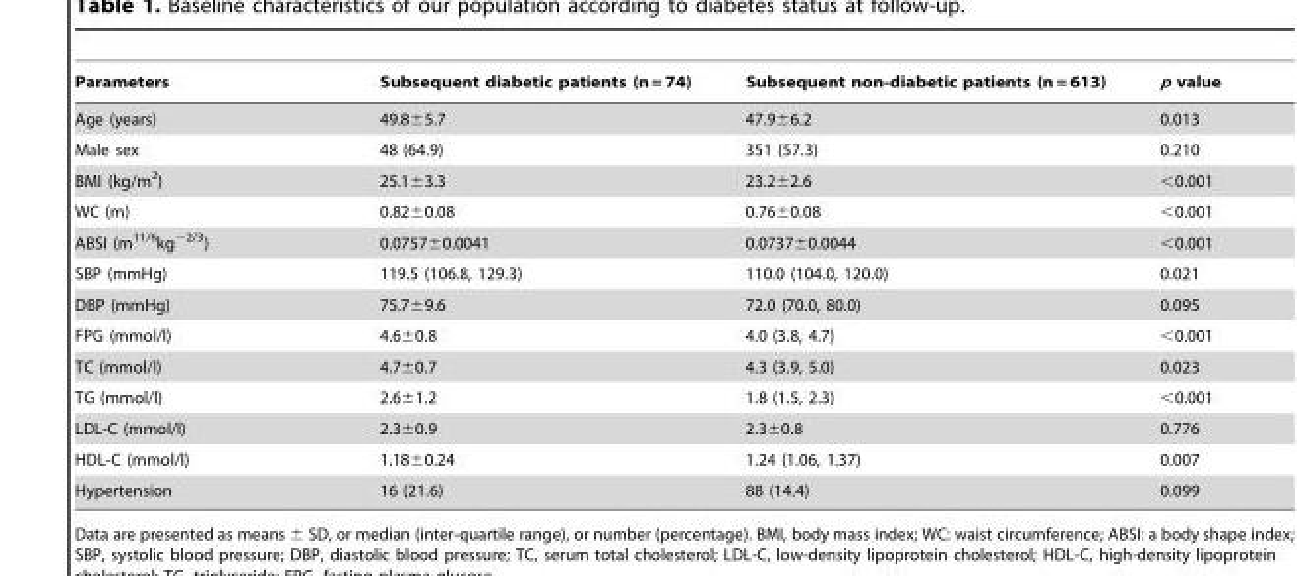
<table><thead><tr><td>Parameters</td><td>Subsequent diabetic patients (n = 74)</td><td>Subsequent non-diabetic patients (n = 613)</td><td>p value</td></tr></thead><tbody><tr><td>Age (years)</td><td>49.8±5.7</td><td>47.9±6.2</td><td>0.013</td></tr><tr><td>Male sex</td><td>48 (64.9)</td><td>351 (57.3)</td><td>0.210</td></tr><tr><td>BMI (kg/m<sup>2</sup>)</td><td>25.1±3.3</td><td>23.2±2.6</td><td>&lt;0.001</td></tr><tr><td>WC (m)</td><td>0.82±0.08</td><td>0.76±0.08</td><td>&lt;0.001</td></tr><tr><td>ABSI (m<sup>11/6</sup>kg<sup>−2/3</sup>)</td><td>0.0757±0.0041</td><td>0.0737±0.0044</td><td>&lt;0.001</td></tr><tr><td>SBP (mmHg)</td><td>119.5 (106.8, 129.3)</td><td>110.0 (104.0, 120.0)</td><td>0.021</td></tr><tr><td>DBP (mmHg)</td><td>75.7±9.6</td><td>72.0 (70.0, 80.0)</td><td>0.095</td></tr><tr><td>FPG (mmol/l)</td><td>4.6±0.8</td><td>4.0 (3.8, 4.7)</td><td>&lt;0.001</td></tr><tr><td>TC (mmol/l)</td><td>4.7±0.7</td><td>4.3 (3.9, 5.0)</td><td>0.023</td></tr><tr><td>TG (mmol/l)</td><td>2.6±1.2</td><td>1.8 (1.5, 2.3)</td><td>&lt;0.001</td></tr><tr><td>LDL-C (mmol/l)</td><td>2.3±0.9</td><td>2.3±0.8</td><td>0.776</td></tr><tr><td>HDL-C (mmol/l)</td><td>1.18±0.24</td><td>1.24 (1.06, 1.37)</td><td>0.007</td></tr><tr><td>Hypertension</td><td>16 (21.6)</td><td>88 (14.4)</td><td>0.099</td></tr></tbody></table>